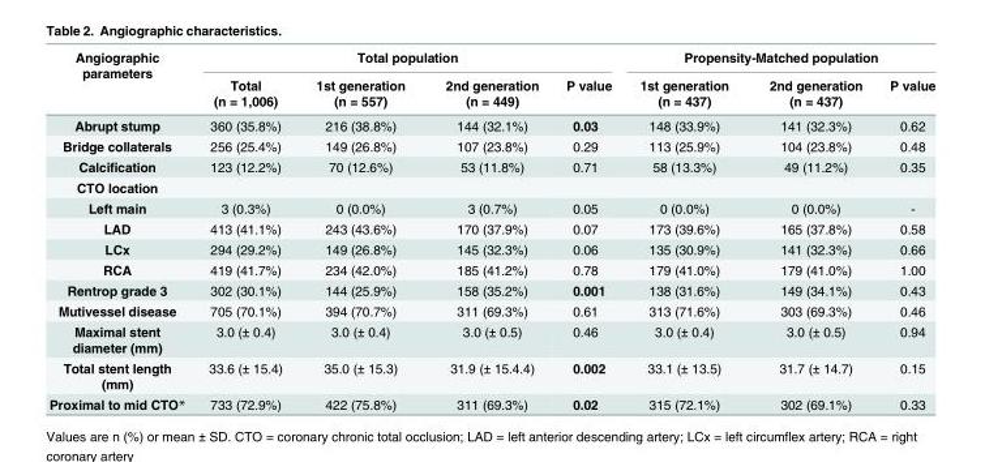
<table><thead><tr><td rowspan="2">Angiographic parameters</td><td colspan="4">Total population</td><td colspan="3">Propensity-Matched population</td></tr><tr><td>Total (n = 1,006)</td><td>1st generation (n = 557)</td><td>2nd generation (n = 449)</td><td>P value</td><td>1st generation (n = 437)</td><td>2nd generation (n = 437)</td><td>P value</td></tr></thead><tbody><tr><td>Abrupt stump</td><td>360 (35.8%)</td><td>216 (38.8%)</td><td>144 (32.1%)</td><td>0.03</td><td>148 (33.9%)</td><td>141 (32.3%)</td><td>0.62</td></tr><tr><td>Bridge collaterals</td><td>256 (25.4%)</td><td>149 (26.8%)</td><td>107 (23.8%)</td><td>0.29</td><td>113 (25.9%)</td><td>104 (23.8%)</td><td>0.48</td></tr><tr><td>Calcification</td><td>123 (12.2%)</td><td>70 (12.6%)</td><td>53 (11.8%)</td><td>0.71</td><td>58 (13.3%)</td><td>49 (11.2%)</td><td>0.35</td></tr><tr><td colspan="8">CTO location</td></tr><tr><td>Left main</td><td>3 (0.3%)</td><td>0 (0.0%)</td><td>3 (0.7%)</td><td>0.05</td><td>0 (0.0%)</td><td>0 (0.0%)</td><td>-</td></tr><tr><td>LAD</td><td>413 (41.1%)</td><td>243 (43.6%)</td><td>170 (37.9%)</td><td>0.07</td><td>173 (39.6%)</td><td>165 (37.8%)</td><td>0.58</td></tr><tr><td>LCx</td><td>294 (29.2%)</td><td>149 (26.8%)</td><td>145 (32.3%)</td><td>0.06</td><td>135 (30.9%)</td><td>141 (32.3%)</td><td>0.66</td></tr><tr><td>RCA</td><td>419 (41.7%)</td><td>234 (42.0%)</td><td>185 (41.2%)</td><td>0.78</td><td>179 (41.0%)</td><td>179 (41.0%)</td><td>1.00</td></tr><tr><td>Rentrop grade 3</td><td>302 (30.1%)</td><td>144 (25.9%)</td><td>158 (35.2%)</td><td>0.001</td><td>138 (31.6%)</td><td>149 (34.1%)</td><td>0.43</td></tr><tr><td>Mutivessel disease</td><td>705 (70.1%)</td><td>394 (70.7%)</td><td>311 (69.3%)</td><td>0.61</td><td>313 (71.6%)</td><td>303 (69.3%)</td><td>0.46</td></tr><tr><td>Maximal stent diameter (mm)</td><td>3.0 (± 0.4)</td><td>3.0 (± 0.4)</td><td>3.0 (± 0.5)</td><td>0.46</td><td>3.0 (± 0.4)</td><td>3.0 (± 0.5)</td><td>0.94</td></tr><tr><td>Total stent length (mm)</td><td>33.6 (± 15.4)</td><td>35.0 (± 15.3)</td><td>31.9 (± 15.4.4)</td><td>0.002</td><td>33.1 (± 13.5)</td><td>31.7 (± 14.7)</td><td>0.15</td></tr><tr><td>Proximal to mid CTO*</td><td>733 (72.9%)</td><td>422 (75.8%)</td><td>311 (69.3%)</td><td>0.02</td><td>315 (72.1%)</td><td>302 (69.1%)</td><td>0.33</td></tr></tbody></table>